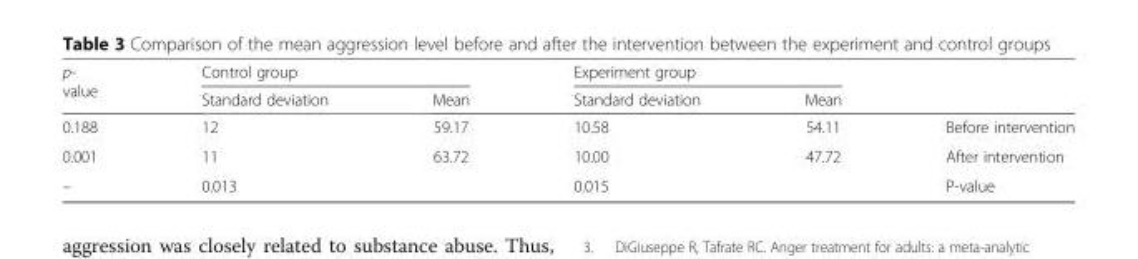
<table><thead><tr><td rowspan="2">p- value</td><td colspan="2">Control group</td><td colspan="2">Experiment group</td><td rowspan="2"></td></tr><tr><td>Standard deviation</td><td>Mean</td><td>Standard deviation</td><td>Mean</td></tr></thead><tbody><tr><td>0.188</td><td>12</td><td>59.17</td><td>10.58</td><td>54.11</td><td>Before intervention</td></tr><tr><td>0.001</td><td>11</td><td>63.72</td><td>10.00</td><td>47.72</td><td>After intervention</td></tr><tr><td>–</td><td colspan="2">0.013</td><td colspan="2">0.015</td><td>P-value</td></tr></tbody></table>